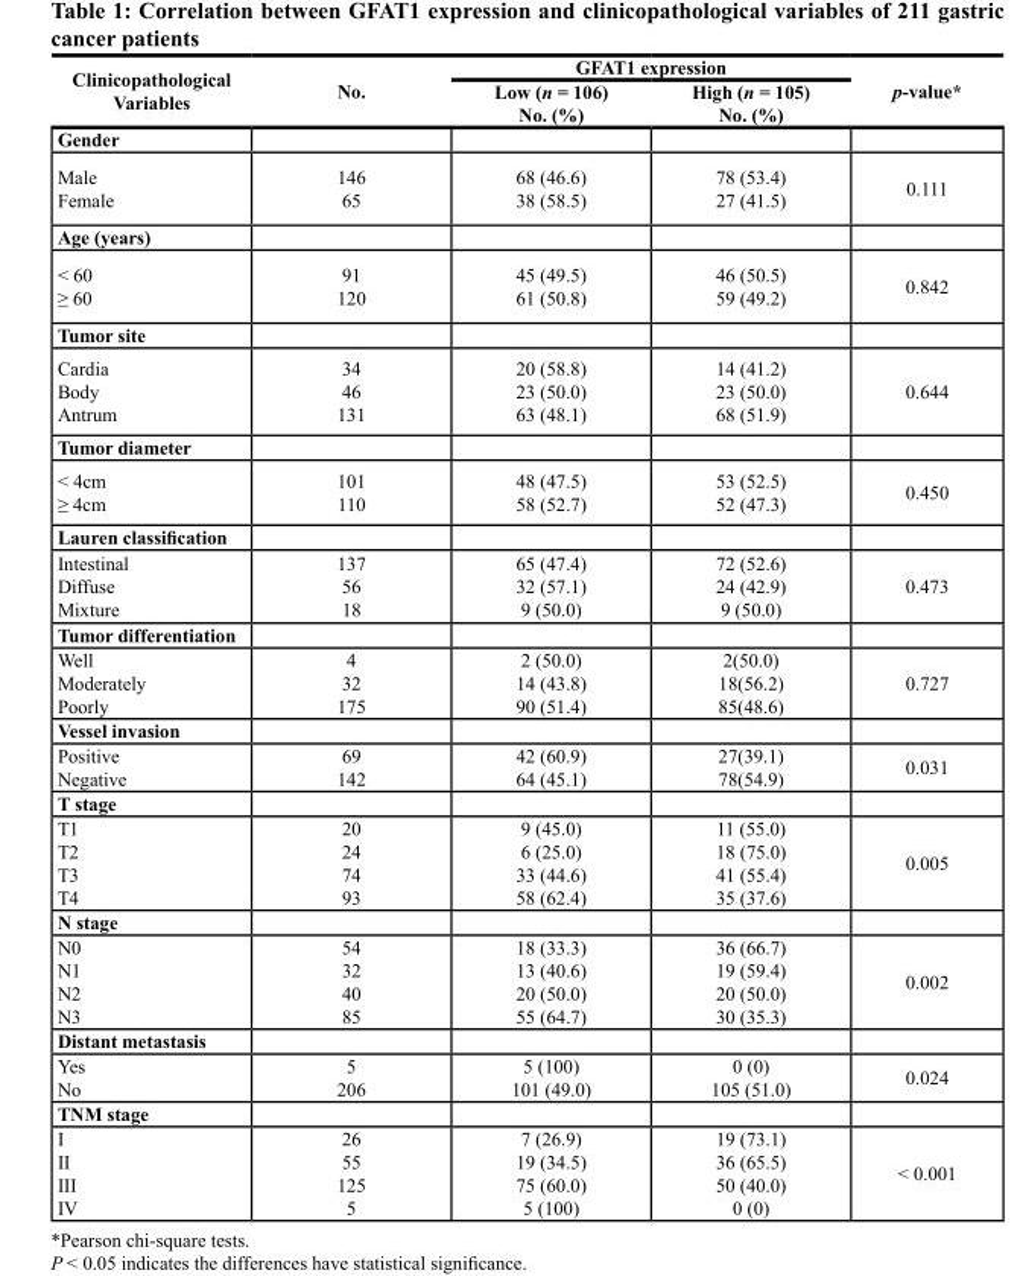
<table><thead><tr><td rowspan="2">clinicopathological Variables</td><td rowspan="2">no.</td><td colspan="2">GFAt1 expression</td><td rowspan="2">p-value*</td></tr><tr><td>low (n = 106) no. (%)</td><td>High (n = 105) no. (%)</td></tr></thead><tbody><tr><td colspan="5">Gender</td></tr><tr><td>Male Female</td><td>146 65</td><td>68 (46.6) 38 (58.5)</td><td>78 (53.4) 27 (41.5)</td><td>0.111</td></tr><tr><td colspan="5">Age (years)</td></tr><tr><td>&lt; 60 ≥ 60</td><td>91 120</td><td>45 (49.5) 61 (50.8)</td><td>46 (50.5) 59 (49.2)</td><td>0.842</td></tr><tr><td colspan="5">tumor site</td></tr><tr><td>Cardia Body Antrum</td><td>34 46 131</td><td>20 (58.8) 23 (50.0) 63 (48.1)</td><td>14 (41.2) 23 (50.0) 68 (51.9)</td><td>0.644</td></tr><tr><td colspan="5">tumor diameter</td></tr><tr><td>&lt; 4cm ≥ 4cm</td><td>101 110</td><td>48 (47.5) 58 (52.7)</td><td>53 (52.5) 52 (47.3)</td><td>0.450</td></tr><tr><td colspan="5">Lauren classification</td></tr><tr><td>Intestinal Diffuse Mixture</td><td>137 56 18</td><td>65 (47.4) 32 (57.1) 9 (50.0)</td><td>72 (52.6) 24 (42.9) 9 (50.0)</td><td>0.473</td></tr><tr><td colspan="5">tumor differentiation</td></tr><tr><td>Well Moderately Poorly</td><td>4 32 175</td><td>2 (50.0) 14 (43.8) 90 (51.4)</td><td>2(50.0) 18(56.2) 85(48.6)</td><td>0.727</td></tr><tr><td colspan="5">Vessel invasion</td></tr><tr><td>Positive Negative</td><td>69 142</td><td>42 (60.9) 64 (45.1)</td><td>27(39.1) 78(54.9)</td><td>0.031</td></tr><tr><td colspan="5">t stage</td></tr><tr><td>T1 T2 T3 T4</td><td>20 24 74 93</td><td>9 (45.0) 6 (25.0) 33 (44.6) 58 (62.4)</td><td>11 (55.0) 18 (75.0) 41 (55.4) 35 (37.6)</td><td>0.005</td></tr><tr><td colspan="5">n stage</td></tr><tr><td>N0 N1 N2 N3</td><td>54 32 40 85</td><td>18 (33.3) 13 (40.6) 20 (50.0) 55 (64.7)</td><td>36 (66.7) 19 (59.4) 20 (50.0) 30 (35.3)</td><td>0.002</td></tr><tr><td colspan="5">distant metastasis</td></tr><tr><td>Yes No</td><td>5 206</td><td>5 (100) 101 (49.0)</td><td>0 (0) 105 (51.0)</td><td>0.024</td></tr><tr><td colspan="5">tnM stage</td></tr><tr><td>I II III IV</td><td>26 55 125 5</td><td>7 (26.9) 19 (34.5) 75 (60.0) 5 (100)</td><td>19 (73.1) 36 (65.5) 50 (40.0) 0 (0)</td><td>&lt; 0.001</td></tr></tbody></table>